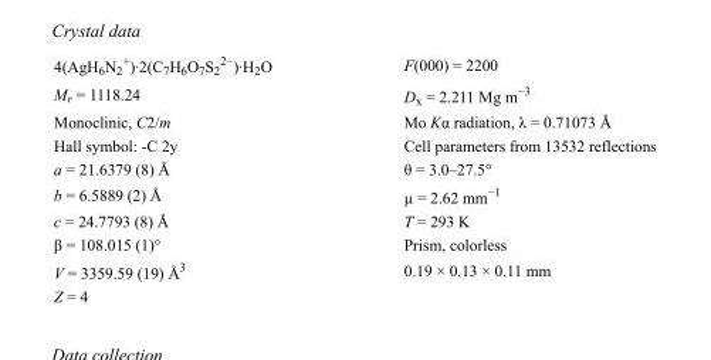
<table><tbody><tr><td>4(AgH<sub>6</sub>N<sub>2</sub> <sup>+</sup>)·2(C<sub>7</sub>H<sub>6</sub>O<sub>7</sub>S<sub>2</sub> <sup>2−</sup>)·H<sub>2</sub>O</td><td>F(000) = 2200</td></tr><tr><td>M<sub>r</sub> = 1118.24</td><td>D<sub>x</sub> = 2.211 Mg m<sup>−3</sup></td></tr><tr><td>Monoclinic, C2/m</td><td>Mo Kα radiation, λ = 0.71073 Å</td></tr><tr><td>Hall symbol: -C 2y</td><td>Cell parameters from 13532 reflections</td></tr><tr><td>a = 21.6379 (8) Å</td><td>θ = 3.0–27.5°</td></tr><tr><td>b = 6.5889 (2) Å</td><td>µ = 2.62 mm<sup>−1</sup></td></tr><tr><td>c = 24.7793 (8) Å</td><td>T = 293 K</td></tr><tr><td>β = 108.015 (1)°</td><td>Prism, colorless</td></tr><tr><td>V = 3359.59 (19) Å<sup>3</sup></td><td>0.19 × 0.13 × 0.11 mm</td></tr><tr><td>Z = 4</td><td></td></tr></tbody></table>